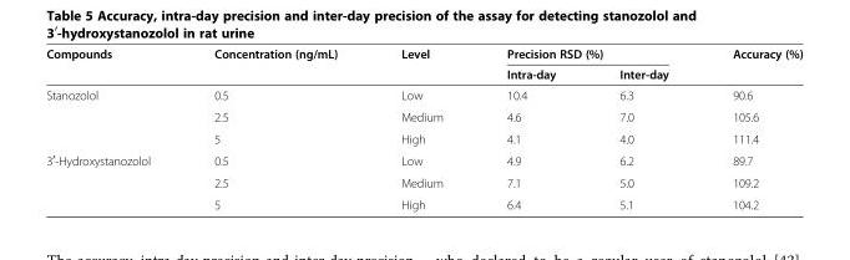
<table><thead><tr><td rowspan="2">Compounds</td><td rowspan="2">Concentration (ng/mL)</td><td rowspan="2">Level</td><td colspan="2">Precision RSD (%)</td><td rowspan="2">Accuracy (%)</td></tr><tr><td>Intra-day</td><td>Inter-day</td></tr></thead><tbody><tr><td rowspan="3">Stanozolol</td><td>0.5</td><td>Low</td><td>10.4</td><td>6.3</td><td>90.6</td></tr><tr><td>2.5</td><td>Medium</td><td>4.6</td><td>7.0</td><td>105.6</td></tr><tr><td>5</td><td>High</td><td>4.1</td><td>4.0</td><td>111.4</td></tr><tr><td rowspan="3">3<sup>′</sup>-Hydroxystanozolol</td><td>0.5</td><td>Low</td><td>4.9</td><td>6.2</td><td>89.7</td></tr><tr><td>2.5</td><td>Medium</td><td>7.1</td><td>5.0</td><td>109.2</td></tr><tr><td>5</td><td>High</td><td>6.4</td><td>5.1</td><td>104.2</td></tr></tbody></table>